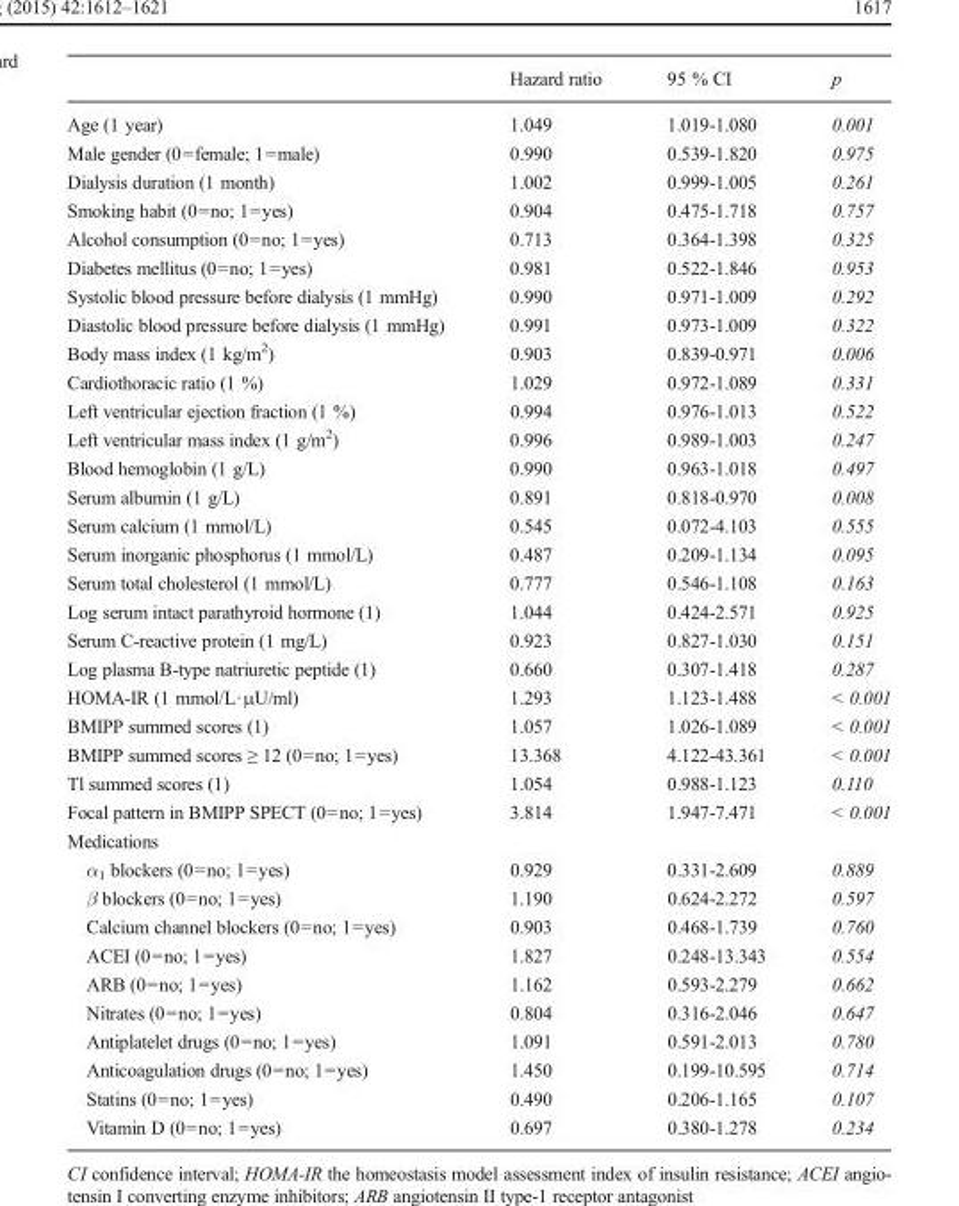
<table><thead><tr><td></td><td>Hazard ratio</td><td>95 % CI</td><td>p</td></tr></thead><tbody><tr><td>Age (1 year)</td><td>1.049</td><td>1.019-1.080</td><td>0.001</td></tr><tr><td>Male gender (0=female; 1=male)</td><td>0.990</td><td>0.539-1.820</td><td>0.975</td></tr><tr><td>Dialysis duration (1 month)</td><td>1.002</td><td>0.999-1.005</td><td>0.261</td></tr><tr><td>Smoking habit (0=no; 1=yes)</td><td>0.904</td><td>0.475-1.718</td><td>0.757</td></tr><tr><td>Alcohol consumption (0=no; 1=yes)</td><td>0.713</td><td>0.364-1.398</td><td>0.325</td></tr><tr><td>Diabetes mellitus (0=no; 1=yes)</td><td>0.981</td><td>0.522-1.846</td><td>0.953</td></tr><tr><td>Systolic blood pressure before dialysis (1 mmHg)</td><td>0.990</td><td>0.971-1.009</td><td>0.292</td></tr><tr><td>Diastolic blood pressure before dialysis (1 mmHg)</td><td>0.991</td><td>0.973-1.009</td><td>0.322</td></tr><tr><td>Body mass index (1 kg/m<sup>2</sup>)</td><td>0.903</td><td>0.839-0.971</td><td>0.006</td></tr><tr><td>Cardiothoracic ratio (1 %)</td><td>1.029</td><td>0.972-1.089</td><td>0.331</td></tr><tr><td>Left ventricular ejection fraction (1 %)</td><td>0.994</td><td>0.976-1.013</td><td>0.522</td></tr><tr><td>Left ventricular mass index (1 g/m<sup>2</sup>)</td><td>0.996</td><td>0.989-1.003</td><td>0.247</td></tr><tr><td>Blood hemoglobin (1 g/L)</td><td>0.990</td><td>0.963-1.018</td><td>0.497</td></tr><tr><td>Serum albumin (1 g/L)</td><td>0.891</td><td>0.818-0.970</td><td>0.008</td></tr><tr><td>Serum calcium (1 mmol/L)</td><td>0.545</td><td>0.072-4.103</td><td>0.555</td></tr><tr><td>Serum inorganic phosphorus (1 mmol/L)</td><td>0.487</td><td>0.209-1.134</td><td>0.095</td></tr><tr><td>Serum total cholesterol (1 mmol/L)</td><td>0.777</td><td>0.546-1.108</td><td>0.163</td></tr><tr><td>Log serum intact parathyroid hormone (1)</td><td>1.044</td><td>0.424-2.571</td><td>0.925</td></tr><tr><td>Serum C-reactive protein (1 mg/L)</td><td>0.923</td><td>0.827-1.030</td><td>0.151</td></tr><tr><td>Log plasma B-type natriuretic peptide (1)</td><td>0.660</td><td>0.307-1.418</td><td>0.287</td></tr><tr><td>HOMA-IR (1 mmol/L·μU/ml)</td><td>1.293</td><td>1.123-1.488</td><td>&lt; 0.001</td></tr><tr><td>BMIPP summed scores (1)</td><td>1.057</td><td>1.026-1.089</td><td>&lt; 0.001</td></tr><tr><td>BMIPP summed scores ≥ 12 (0=no; 1=yes)</td><td>13.368</td><td>4.122-43.361</td><td>&lt; 0.001</td></tr><tr><td>Tl summed scores (1)</td><td>1.054</td><td>0.988-1.123</td><td>0.110</td></tr><tr><td>Focal pattern in BMIPP SPECT (0=no; 1=yes)</td><td>3.814</td><td>1.947-7.471</td><td>&lt; 0.001</td></tr><tr><td colspan="4">Medications</td></tr><tr><td>α<sub>1</sub> blockers (0=no; 1=yes)</td><td>0.929</td><td>0.331-2.609</td><td>0.889</td></tr><tr><td>β blockers (0=no; 1=yes)</td><td>1.190</td><td>0.624-2.272</td><td>0.597</td></tr><tr><td>Calcium channel blockers (0=no; 1=yes)</td><td>0.903</td><td>0.468-1.739</td><td>0.760</td></tr><tr><td>ACEI (0=no; 1=yes)</td><td>1.827</td><td>0.248-13.343</td><td>0.554</td></tr><tr><td>ARB (0=no; 1=yes)</td><td>1.162</td><td>0.593-2.279</td><td>0.662</td></tr><tr><td>Nitrates (0=no; 1=yes)</td><td>0.804</td><td>0.316-2.046</td><td>0.647</td></tr><tr><td>Antiplatelet drugs (0=no; 1=yes)</td><td>1.091</td><td>0.591-2.013</td><td>0.780</td></tr><tr><td>Anticoagulation drugs (0=no; 1=yes)</td><td>1.450</td><td>0.199-10.595</td><td>0.714</td></tr><tr><td>Statins (0=no; 1=yes)</td><td>0.490</td><td>0.206-1.165</td><td>0.107</td></tr><tr><td>Vitamin D (0=no; 1=yes)</td><td>0.697</td><td>0.380-1.278</td><td>0.234</td></tr></tbody></table>